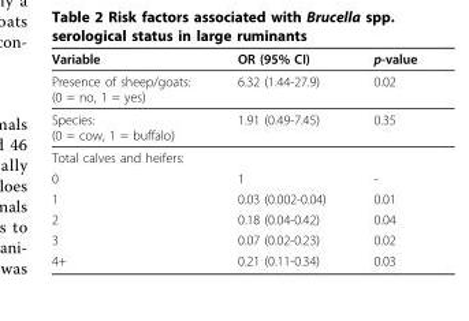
<table><thead><tr><td>Variable</td><td>OR (95% CI)</td><td>p-value</td></tr></thead><tbody><tr><td>Presence of sheep/goats: (0 = no, 1 = yes)</td><td>6.32 (1.44-27.9)</td><td>0.02</td></tr><tr><td>Species: (0 = cow, 1 = buffalo)</td><td>1.91 (0.49-7.45)</td><td>0.35</td></tr><tr><td colspan="3">Total calves and heifers:</td></tr><tr><td>0</td><td>1</td><td>-</td></tr><tr><td>1</td><td>0.03 (0.002-0.04)</td><td>0.01</td></tr><tr><td>2</td><td>0.18 (0.04-0.42)</td><td>0.04</td></tr><tr><td>3</td><td>0.07 (0.02-0.23)</td><td>0.02</td></tr><tr><td>4+</td><td>0.21 (0.11-0.34)</td><td>0.03</td></tr></tbody></table>